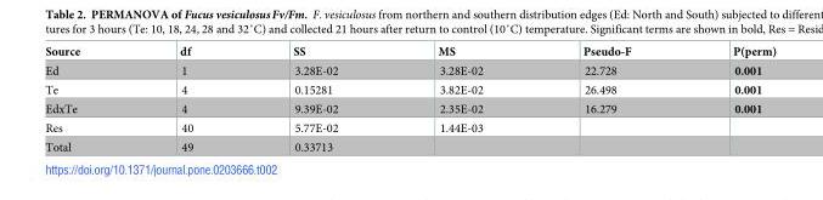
<table><thead><tr><td>Source</td><td>df</td><td>SS</td><td>MS</td><td>Pseudo-F</td><td>P(perm)</td></tr></thead><tbody><tr><td>Ed</td><td>1</td><td>3.28E-02</td><td>3.28E-02</td><td>22.728</td><td>0.001</td></tr><tr><td>Te</td><td>4</td><td>0.15281</td><td>3.82E-02</td><td>26.498</td><td>0.001</td></tr><tr><td>EdxTe</td><td>4</td><td>9.39E-02</td><td>2.35E-02</td><td>16.279</td><td>0.001</td></tr><tr><td>Res</td><td>40</td><td>5.77E-02</td><td>1.44E-03</td><td></td><td></td></tr><tr><td>Total</td><td>49</td><td>0.33713</td><td></td><td></td><td></td></tr></tbody></table>